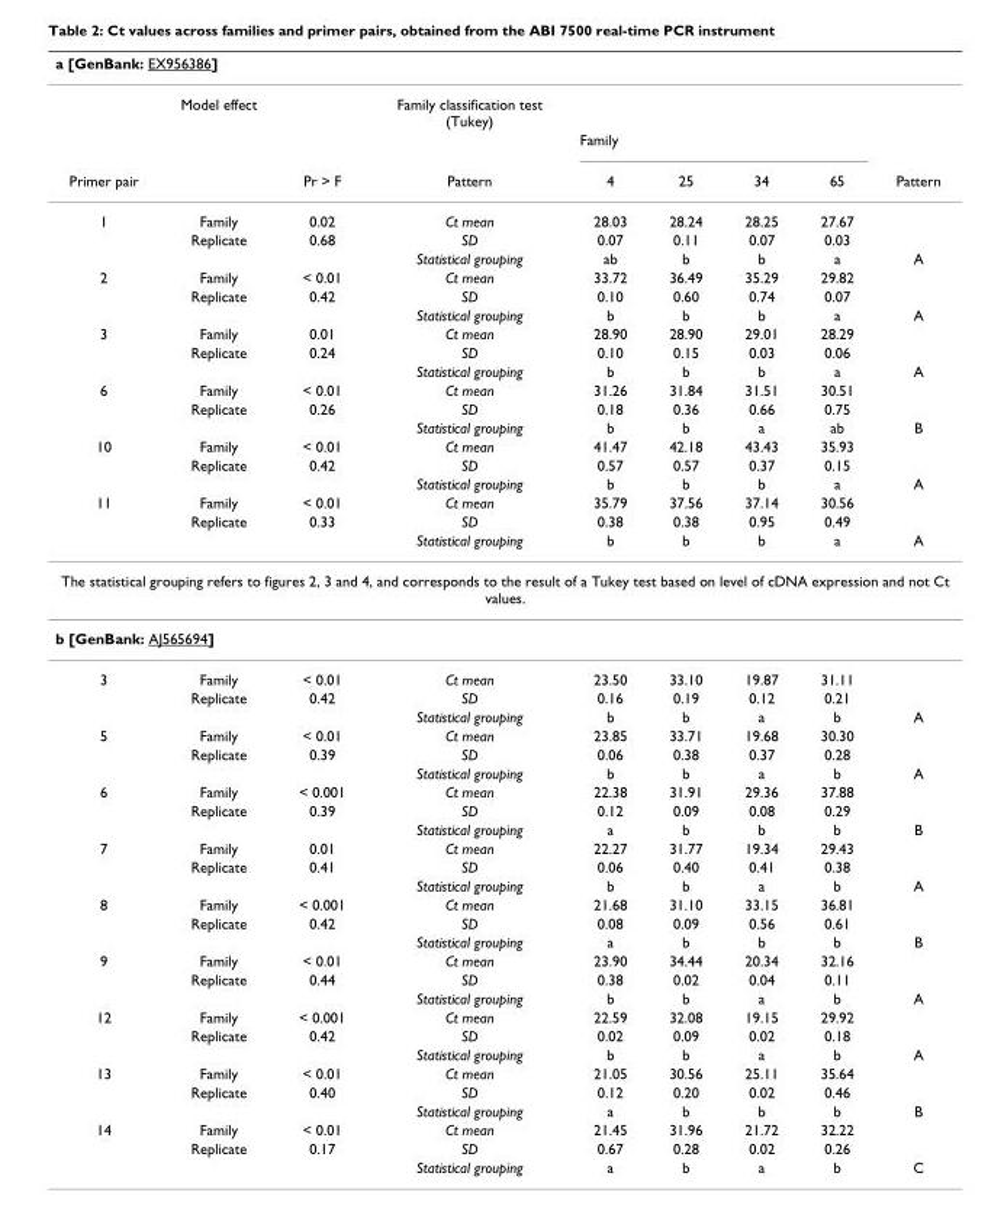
<table><thead><tr><td colspan="9">a [GenBank: EX956386]</td></tr><tr><td></td><td>Model effect</td><td></td><td>Family classification test (Tukey)</td><td></td><td></td><td></td><td></td><td></td></tr></thead><tbody><tr><td></td><td></td><td></td><td></td><td colspan="4">Family</td><td></td></tr><tr><td>Primer pair</td><td></td><td>Pr &gt; F</td><td>Pattern</td><td>4</td><td>25</td><td>34</td><td>65</td><td>Pattern</td></tr><tr><td rowspan="3">1</td><td>Family</td><td>0.02</td><td>Ct mean</td><td>28.03</td><td>28.24</td><td>28.25</td><td>27.67</td><td></td></tr><tr><td>Replicate</td><td>0.68</td><td>SD</td><td>0.07</td><td>0.11</td><td>0.07</td><td>0.03</td><td></td></tr><tr><td></td><td></td><td>Statistical grouping</td><td>ab</td><td>b</td><td>b</td><td>a</td><td>A</td></tr><tr><td rowspan="3">2</td><td>Family</td><td>&lt; 0.01</td><td>Ct mean</td><td>33.72</td><td>36.49</td><td>35.29</td><td>29.82</td><td></td></tr><tr><td>Replicate</td><td>0.42</td><td>SD</td><td>0.10</td><td>0.60</td><td>0.74</td><td>0.07</td><td></td></tr><tr><td></td><td></td><td>Statistical grouping</td><td>b</td><td>b</td><td>b</td><td>a</td><td>A</td></tr><tr><td rowspan="3">3</td><td>Family</td><td>0.01</td><td>Ct mean</td><td>28.90</td><td>28.90</td><td>29.01</td><td>28.29</td><td></td></tr><tr><td>Replicate</td><td>0.24</td><td>SD</td><td>0.10</td><td>0.15</td><td>0.03</td><td>0.06</td><td></td></tr><tr><td></td><td></td><td>Statistical grouping</td><td>b</td><td>b</td><td>b</td><td>a</td><td>A</td></tr><tr><td rowspan="3">6</td><td>Family</td><td>&lt; 0.01</td><td>Ct mean</td><td>31.26</td><td>31.84</td><td>31.51</td><td>30.51</td><td></td></tr><tr><td>Replicate</td><td>0.26</td><td>SD</td><td>0.18</td><td>0.36</td><td>0.66</td><td>0.75</td><td></td></tr><tr><td></td><td></td><td>Statistical grouping</td><td>b</td><td>b</td><td>a</td><td>ab</td><td>B</td></tr><tr><td rowspan="3">10</td><td>Family</td><td>&lt; 0.01</td><td>Ct mean</td><td>41.47</td><td>42.18</td><td>43.43</td><td>35.93</td><td></td></tr><tr><td>Replicate</td><td>0.42</td><td>SD</td><td>0.57</td><td>0.57</td><td>0.37</td><td>0.15</td><td></td></tr><tr><td></td><td></td><td>Statistical grouping</td><td>b</td><td>b</td><td>b</td><td>a</td><td>A</td></tr><tr><td rowspan="3">11</td><td>Family</td><td>&lt; 0.01</td><td>Ct mean</td><td>35.79</td><td>37.56</td><td>37.14</td><td>30.56</td><td></td></tr><tr><td>Replicate</td><td>0.33</td><td>SD</td><td>0.38</td><td>0.38</td><td>0.95</td><td>0.49</td><td></td></tr><tr><td></td><td></td><td>Statistical grouping</td><td>b</td><td>b</td><td>b</td><td>a</td><td>A</td></tr><tr><td colspan="9">The statistical grouping refers to figures 2, 3 and 4, and corresponds to the result of a Tukey test based on level of cDNA expression and not Ct values.</td></tr><tr><td colspan="9">b [GenBank: AJ565694]</td></tr><tr><td rowspan="3">3</td><td>Family</td><td>&lt; 0.01</td><td>Ct mean</td><td>23.50</td><td>33.10</td><td>19.87</td><td>31.11</td><td></td></tr><tr><td>Replicate</td><td>0.42</td><td>SD</td><td>0.16</td><td>0.19</td><td>0.12</td><td>0.21</td><td></td></tr><tr><td></td><td></td><td>Statistical grouping</td><td>b</td><td>b</td><td>a</td><td>b</td><td>A</td></tr><tr><td rowspan="3">5</td><td>Family</td><td>&lt; 0.01</td><td>Ct mean</td><td>23.85</td><td>33.71</td><td>19.68</td><td>30.30</td><td></td></tr><tr><td>Replicate</td><td>0.39</td><td>SD</td><td>0.06</td><td>0.38</td><td>0.37</td><td>0.28</td><td></td></tr><tr><td></td><td></td><td>Statistical grouping</td><td>b</td><td>b</td><td>a</td><td>b</td><td>A</td></tr><tr><td rowspan="3">6</td><td>Family</td><td>&lt; 0.001</td><td>Ct mean</td><td>22.38</td><td>31.91</td><td>29.36</td><td>37.88</td><td></td></tr><tr><td>Replicate</td><td>0.39</td><td>SD</td><td>0.12</td><td>0.09</td><td>0.08</td><td>0.29</td><td></td></tr><tr><td></td><td></td><td>Statistical grouping</td><td>a</td><td>b</td><td>b</td><td>b</td><td>B</td></tr><tr><td rowspan="3">7</td><td>Family</td><td>0.01</td><td>Ct mean</td><td>22.27</td><td>31.77</td><td>19.34</td><td>29.43</td><td></td></tr><tr><td>Replicate</td><td>0.41</td><td>SD</td><td>0.06</td><td>0.40</td><td>0.41</td><td>0.38</td><td></td></tr><tr><td></td><td></td><td>Statistical grouping</td><td>b</td><td>b</td><td>a</td><td>b</td><td>A</td></tr><tr><td rowspan="3">8</td><td>Family</td><td>&lt; 0.001</td><td>Ct mean</td><td>21.68</td><td>31.10</td><td>33.15</td><td>36.81</td><td></td></tr><tr><td>Replicate</td><td>0.42</td><td>SD</td><td>0.08</td><td>0.09</td><td>0.56</td><td>0.61</td><td></td></tr><tr><td></td><td></td><td>Statistical grouping</td><td>a</td><td>b</td><td>b</td><td>b</td><td>B</td></tr><tr><td rowspan="3">9</td><td>Family</td><td>&lt; 0.01</td><td>Ct mean</td><td>23.90</td><td>34.44</td><td>20.34</td><td>32.16</td><td></td></tr><tr><td>Replicate</td><td>0.44</td><td>SD</td><td>0.38</td><td>0.02</td><td>0.04</td><td>0.11</td><td></td></tr><tr><td></td><td></td><td>Statistical grouping</td><td>b</td><td>b</td><td>a</td><td>b</td><td>A</td></tr><tr><td rowspan="3">12</td><td>Family</td><td>&lt; 0.001</td><td>Ct mean</td><td>22.59</td><td>32.08</td><td>19.15</td><td>29.92</td><td></td></tr><tr><td>Replicate</td><td>0.42</td><td>SD</td><td>0.02</td><td>0.09</td><td>0.02</td><td>0.18</td><td></td></tr><tr><td></td><td></td><td>Statistical grouping</td><td>b</td><td>b</td><td>a</td><td>b</td><td>A</td></tr><tr><td rowspan="3">13</td><td>Family</td><td>&lt; 0.01</td><td>Ct mean</td><td>21.05</td><td>30.56</td><td>25.11</td><td>35.64</td><td></td></tr><tr><td>Replicate</td><td>0.40</td><td>SD</td><td>0.12</td><td>0.20</td><td>0.02</td><td>0.46</td><td></td></tr><tr><td></td><td></td><td>Statistical grouping</td><td>a</td><td>b</td><td>b</td><td>b</td><td>B</td></tr><tr><td rowspan="3">14</td><td>Family</td><td>&lt; 0.01</td><td>Ct mean</td><td>21.45</td><td>31.96</td><td>21.72</td><td>32.22</td><td></td></tr><tr><td>Replicate</td><td>0.17</td><td>SD</td><td>0.67</td><td>0.28</td><td>0.02</td><td>0.26</td><td></td></tr><tr><td></td><td></td><td>Statistical grouping</td><td>a</td><td>b</td><td>a</td><td>b</td><td>C</td></tr></tbody></table>